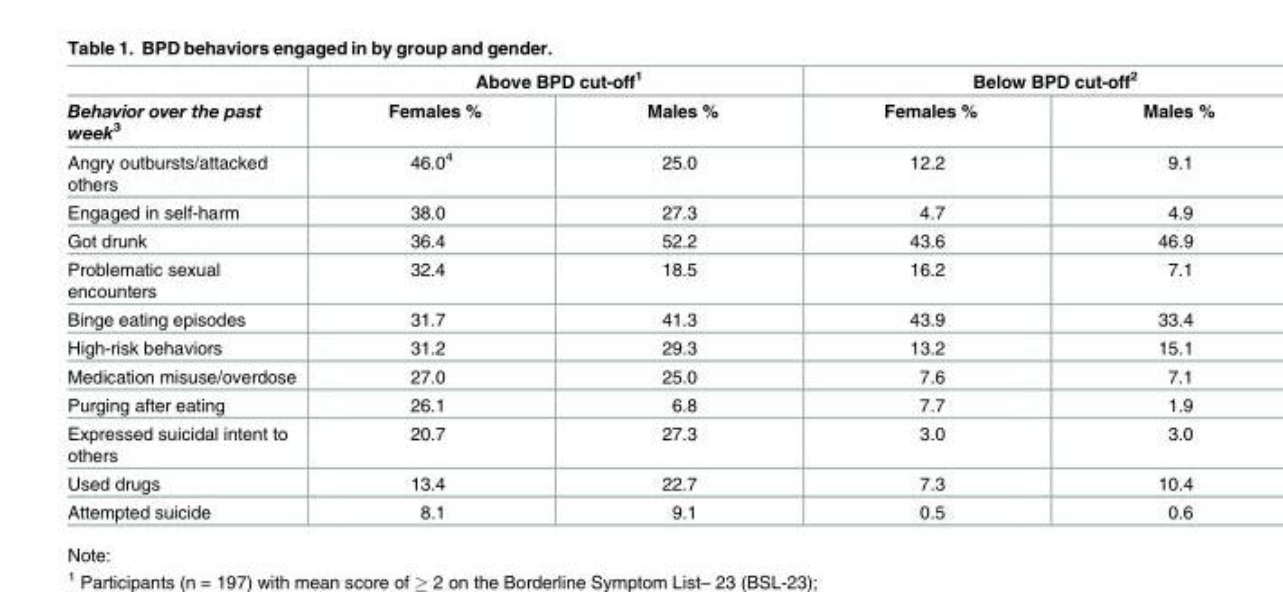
<table><thead><tr><td rowspan="2">Behavior over the past week<sup>3</sup></td><td colspan="2">Above BPD cut-off<sup>1</sup></td><td colspan="2">Below BPD cut-off<sup>2</sup></td></tr><tr><td>Females %</td><td>Males %</td><td>Females %</td><td>Males %</td></tr></thead><tbody><tr><td>Angry outbursts/attacked others</td><td>46.0<sup>4</sup></td><td>25.0</td><td>12.2</td><td>9.1</td></tr><tr><td>Engaged in self-harm</td><td>38.0</td><td>27.3</td><td>4.7</td><td>4.9</td></tr><tr><td>Got drunk</td><td>36.4</td><td>52.2</td><td>43.6</td><td>46.9</td></tr><tr><td>Problematic sexual encounters</td><td>32.4</td><td>18.5</td><td>16.2</td><td>7.1</td></tr><tr><td>Binge eating episodes</td><td>31.7</td><td>41.3</td><td>43.9</td><td>33.4</td></tr><tr><td>High-risk behaviors</td><td>31.2</td><td>29.3</td><td>13.2</td><td>15.1</td></tr><tr><td>Medication misuse/overdose</td><td>27.0</td><td>25.0</td><td>7.6</td><td>7.1</td></tr><tr><td>Purging after eating</td><td>26.1</td><td>6.8</td><td>7.7</td><td>1.9</td></tr><tr><td>Expressed suicidal intent to others</td><td>20.7</td><td>27.3</td><td>3.0</td><td>3.0</td></tr><tr><td>Used drugs</td><td>13.4</td><td>22.7</td><td>7.3</td><td>10.4</td></tr><tr><td>Attempted suicide</td><td>8.1</td><td>9.1</td><td>0.5</td><td>0.6</td></tr></tbody></table>